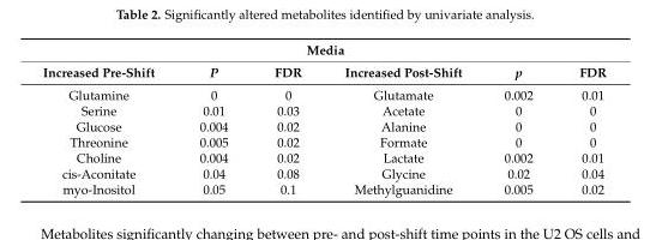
<table><thead><tr><td colspan="6">Media</td></tr><tr><td>Increased Pre-Shift</td><td>P</td><td>FDR</td><td>Increased Post-Shift</td><td>p</td><td>FDR</td></tr></thead><tbody><tr><td>Glutamine</td><td>0</td><td>0</td><td>Glutamate</td><td>0.002</td><td>0.01</td></tr><tr><td>Serine</td><td>0.01</td><td>0.03</td><td>Acetate</td><td>0</td><td>0</td></tr><tr><td>Glucose</td><td>0.004</td><td>0.02</td><td>Alanine</td><td>0</td><td>0</td></tr><tr><td>Threonine</td><td>0.005</td><td>0.02</td><td>Formate</td><td>0</td><td>0</td></tr><tr><td>Choline</td><td>0.004</td><td>0.02</td><td>Lactate</td><td>0.002</td><td>0.01</td></tr><tr><td>cis-Aconitate</td><td>0.04</td><td>0.08</td><td>Glycine</td><td>0.02</td><td>0.04</td></tr><tr><td>myo-Inositol</td><td>0.05</td><td>0.1</td><td>Methylguanidine</td><td>0.005</td><td>0.02</td></tr></tbody></table>